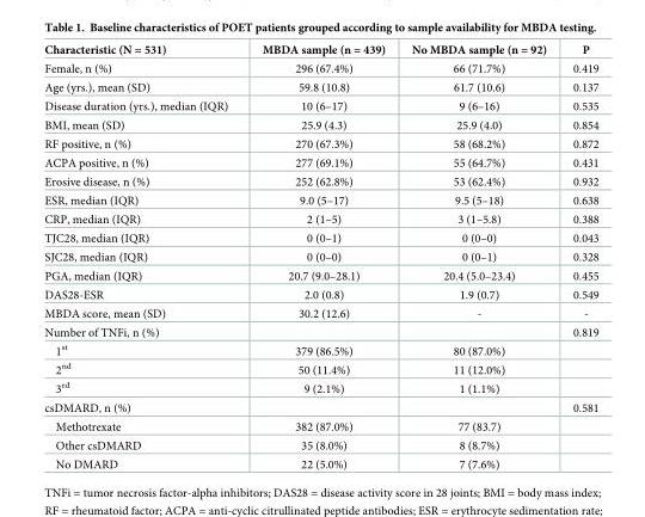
<table><thead><tr><td>Characteristic (N = 531)</td><td>MBDA sample (n = 439)</td><td>No MBDA sample (n = 92)</td><td>P</td></tr></thead><tbody><tr><td>Female, n (%)</td><td>296 (67.4%)</td><td>66 (71.7%)</td><td>0.419</td></tr><tr><td>Age (yrs.), mean (SD)</td><td>59.8 (10.8)</td><td>61.7 (10.6)</td><td>0.137</td></tr><tr><td>Disease duration (yrs.), median (IQR)</td><td>10 (6–17)</td><td>9 (6–16)</td><td>0.535</td></tr><tr><td>BMI, mean (SD)</td><td>25.9 (4.3)</td><td>25.9 (4.0)</td><td>0.854</td></tr><tr><td>RF positive, n (%)</td><td>270 (67.3%)</td><td>58 (68.2%)</td><td>0.872</td></tr><tr><td>ACPA positive, n (%)</td><td>277 (69.1%)</td><td>55 (64.7%)</td><td>0.431</td></tr><tr><td>Erosive disease, n (%)</td><td>252 (62.8%)</td><td>53 (62.4%)</td><td>0.932</td></tr><tr><td>ESR, median (IQR)</td><td>9.0 (5–17)</td><td>9.5 (5–18)</td><td>0.638</td></tr><tr><td>CRP, median (IQR)</td><td>2 (1–5)</td><td>3 (1–5.8)</td><td>0.388</td></tr><tr><td>TJC28, median (IQR)</td><td>0 (0–1)</td><td>0 (0–0)</td><td>0.043</td></tr><tr><td>SJC28, median (IQR)</td><td>0 (0–0)</td><td>0 (0–1)</td><td>0.328</td></tr><tr><td>PGA, median (IQR)</td><td>20.7 (9.0–28.1)</td><td>20.4 (5.0–23.4)</td><td>0.455</td></tr><tr><td>DAS28-ESR</td><td>2.0 (0.8)</td><td>1.9 (0.7)</td><td>0.549</td></tr><tr><td>MBDA score, mean (SD)</td><td>30.2 (12.6)</td><td>-</td><td>-</td></tr><tr><td>Number of TNFi, n (%)</td><td></td><td></td><td>0.819</td></tr><tr><td>1<sup>st</sup></td><td>379 (86.5%)</td><td>80 (87.0%)</td><td></td></tr><tr><td>2<sup>nd</sup></td><td>50 (11.4%)</td><td>11 (12.0%)</td><td></td></tr><tr><td>3<sup>rd</sup></td><td>9 (2.1%)</td><td>1 (1.1%)</td><td></td></tr><tr><td>csDMARD, n (%)</td><td></td><td></td><td>0.581</td></tr><tr><td>Methotrexate</td><td>382 (87.0%)</td><td>77 (83.7)</td><td></td></tr><tr><td>Other csDMARD</td><td>35 (8.0%)</td><td>8 (8.7%)</td><td></td></tr><tr><td>No DMARD</td><td>22 (5.0%)</td><td>7 (7.6%)</td><td></td></tr></tbody></table>